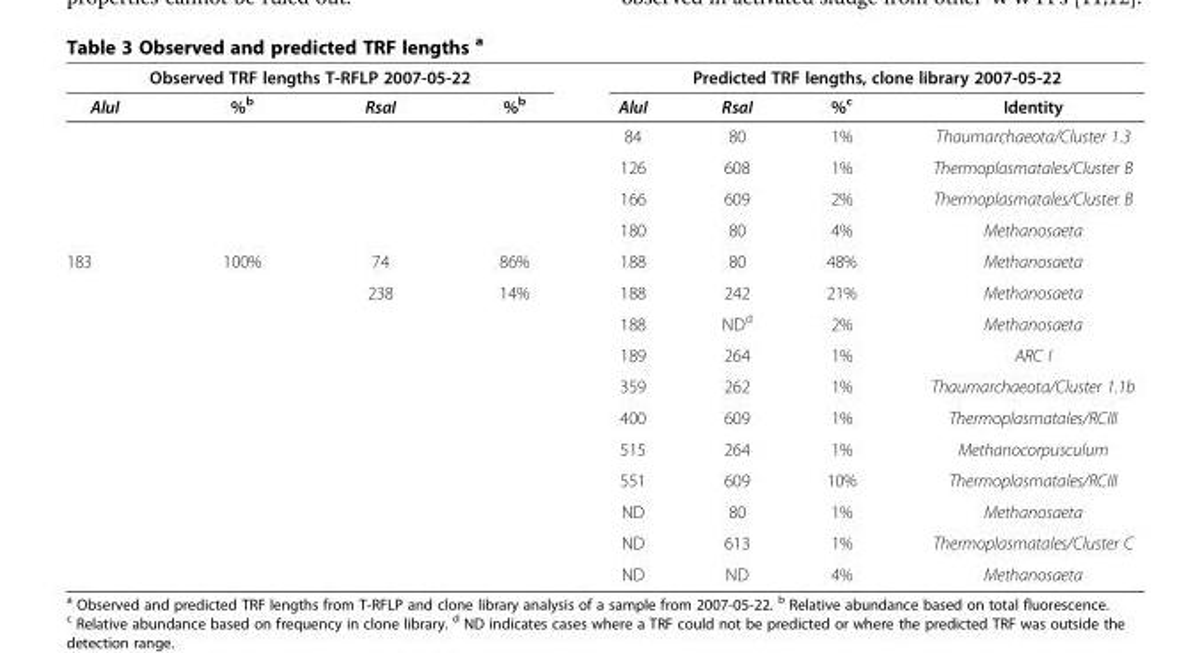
<table><thead><tr><td colspan="4">Observed TRF lengths T-RFLP 2007-05-22</td><td colspan="4">Predicted TRF lengths, clone library 2007-05-22</td></tr><tr><td>AluI</td><td>%<sup>b</sup></td><td>RsaI</td><td>%<sup>b</sup></td><td>AluI</td><td>RsaI</td><td>%<sup>c</sup></td><td>Identity</td></tr></thead><tbody><tr><td></td><td></td><td></td><td></td><td>84</td><td>80</td><td>1%</td><td>Thaumarchaeota/Cluster 1.3</td></tr><tr><td></td><td></td><td></td><td></td><td>126</td><td>608</td><td>1%</td><td>Thermoplasmatales/Cluster B</td></tr><tr><td></td><td></td><td></td><td></td><td>166</td><td>609</td><td>2%</td><td>Thermoplasmatales/Cluster B</td></tr><tr><td></td><td></td><td></td><td></td><td>180</td><td>80</td><td>4%</td><td>Methanosaeta</td></tr><tr><td rowspan="11">183</td><td>100%</td><td>74</td><td>86%</td><td>188</td><td>80</td><td>48%</td><td>Methanosaeta</td></tr><tr><td></td><td>238</td><td>14%</td><td>188</td><td>242</td><td>21%</td><td>Methanosaeta</td></tr><tr><td></td><td></td><td></td><td>188</td><td>ND<sup>d</sup></td><td>2%</td><td>Methanosaeta</td></tr><tr><td></td><td></td><td></td><td>189</td><td>264</td><td>1%</td><td>ARC I</td></tr><tr><td></td><td></td><td></td><td>359</td><td>262</td><td>1%</td><td>Thaumarchaeota/Cluster 1.1b</td></tr><tr><td></td><td></td><td></td><td>400</td><td>609</td><td>1%</td><td>Thermoplasmatales/RCIII</td></tr><tr><td></td><td></td><td></td><td>515</td><td>264</td><td>1%</td><td>Methanocorpusculum</td></tr><tr><td></td><td></td><td></td><td>551</td><td>609</td><td>10%</td><td>Thermoplasmatales/RCIII</td></tr><tr><td></td><td></td><td></td><td>ND</td><td>80</td><td>1%</td><td>Methanosaeta</td></tr><tr><td></td><td></td><td></td><td>ND</td><td>613</td><td>1%</td><td>Thermoplasmatales/Cluster C</td></tr><tr><td></td><td></td><td></td><td>ND</td><td>ND</td><td>4%</td><td>Methanosaeta</td></tr></tbody></table>